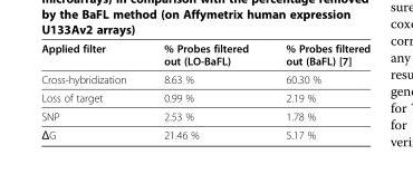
<table><thead><tr><td>Applied filter</td><td>% Probes filtered out (LO-BaFL)</td><td>% Probes filtered out (BaFL) [7]</td></tr></thead><tbody><tr><td>Cross-hybridization</td><td>8.63 %</td><td>60.30 %</td></tr><tr><td>Loss of target</td><td>0.99 %</td><td>2.19 %</td></tr><tr><td>SNP</td><td>2.53 %</td><td>1.78 %</td></tr><tr><td>ΔG</td><td>21.46 %</td><td>5.17 %</td></tr></tbody></table>